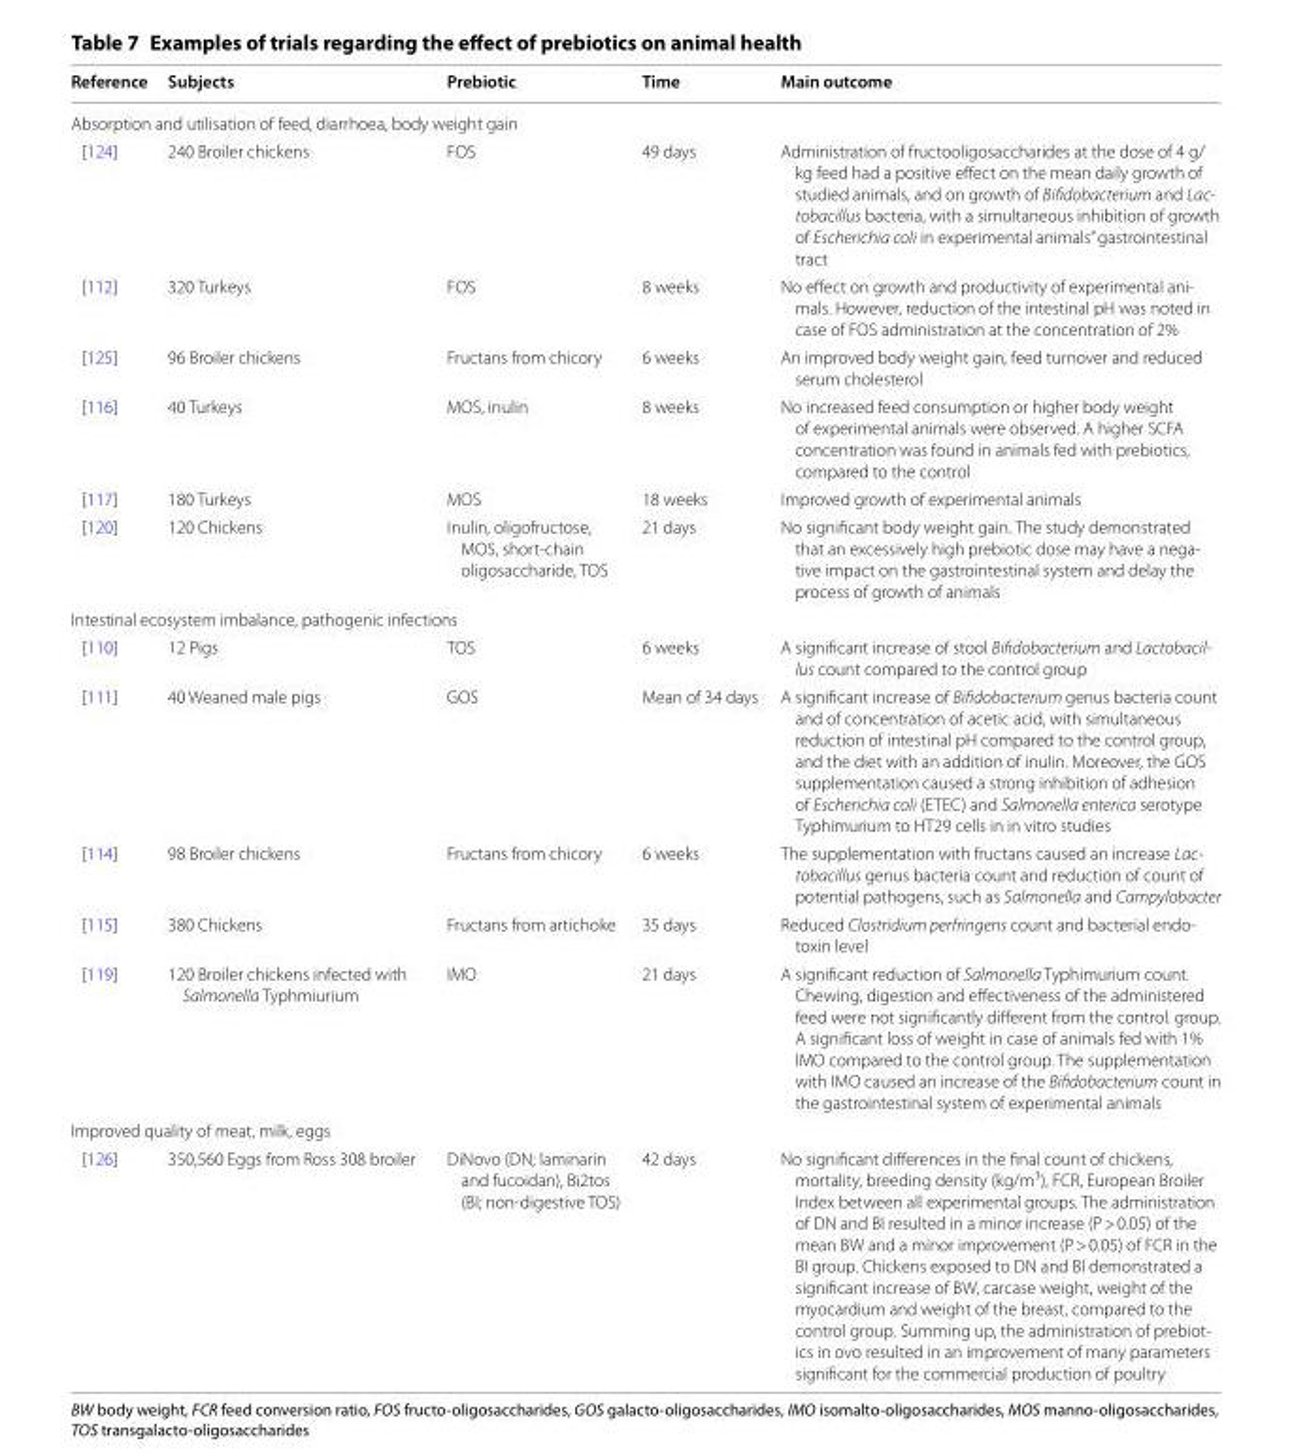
<table><thead><tr><td>Reference</td><td>Subjects</td><td>Prebiotic</td><td>Time</td><td>Main outcome</td></tr></thead><tbody><tr><td colspan="5">Absorption and utilisation of feed, diarrhoea, body weight gain</td></tr><tr><td>[124]</td><td>240 Broiler chickens</td><td>FOS</td><td>49 days</td><td>Administration of fructooligosaccharides at the dose of 4 g/ kg feed had a positive effect on the mean daily growth of studied animals, and on growth of Bifidobacterium and Lac- tobacillus bacteria, with a simultaneous inhibition of growth of Escherichia coli in experimental animals’’ gastrointestinal tract</td></tr><tr><td>[112]</td><td>320 Turkeys</td><td>FOS</td><td>8 weeks</td><td>No effect on growth and productivity of experimental ani- mals. However, reduction of the intestinal pH was noted in case of FOS administration at the concentration of 2%</td></tr><tr><td>[125]</td><td>96 Broiler chickens</td><td>Fructans from chicory</td><td>6 weeks</td><td>An improved body weight gain, feed turnover and reduced serum cholesterol</td></tr><tr><td>[116]</td><td>40 Turkeys</td><td>MOS, inulin</td><td>8 weeks</td><td>No increased feed consumption or higher body weight of experimental animals were observed. A higher SCFA concentration was found in animals fed with prebiotics, compared to the control</td></tr><tr><td>[117]</td><td>180 Turkeys</td><td>MOS</td><td>18 weeks</td><td>Improved growth of experimental animals</td></tr><tr><td>[120]</td><td>120 Chickens</td><td>Inulin, oligofructose, MOS, short-chain oligosaccharide, TOS</td><td>21 days</td><td>No significant body weight gain. The study demonstrated that an excessively high prebiotic dose may have a nega- tive impact on the gastrointestinal system and delay the process of growth of animals</td></tr><tr><td colspan="5">Intestinal ecosystem imbalance, pathogenic infections</td></tr><tr><td>[110]</td><td>12 Pigs</td><td>TOS</td><td>6 weeks</td><td>A significant increase of stool Bifidobacterium and Lactobacil- lus count compared to the control group</td></tr><tr><td>[111]</td><td>40 Weaned male pigs</td><td>GOS</td><td>Mean of 34 days</td><td>A significant increase of Bifidobacterium genus bacteria count and of concentration of acetic acid, with simultaneous reduction of intestinal pH compared to the control group, and the diet with an addition of inulin. Moreover, the GOS supplementation caused a strong inhibition of adhesion of Escherichia coli (ETEC) and Salmonella enterica serotype Typhimurium to HT29 cells in in vitro studies</td></tr><tr><td>[114]</td><td>98 Broiler chickens</td><td>Fructans from chicory</td><td>6 weeks</td><td>The supplementation with fructans caused an increase Lac- tobacillus genus bacteria count and reduction of count of potential pathogens, such as Salmonella and Campylobacter</td></tr><tr><td>[115]</td><td>380 Chickens</td><td>Fructans from artichoke</td><td>35 days</td><td>Reduced Clostridium perfringens count and bacterial endo- toxin level</td></tr><tr><td>[119]</td><td>120 Broiler chickens infected with Salmonella Typhmiurium</td><td>IMO</td><td>21 days</td><td>A significant reduction of Salmonella Typhimurium count. Chewing, digestion and effectiveness of the administered feed were not significantly different from the control. group. A significant loss of weight in case of animals fed with 1% IMO compared to the control group. The supplementation with IMO caused an increase of the Bifidobacterium count in the gastrointestinal system of experimental animals</td></tr><tr><td colspan="5">Improved quality of meat, milk, eggs</td></tr><tr><td>[126]</td><td>350,560 Eggs from Ross 308 broiler</td><td>DiNovo (DN; laminarin and fucoidan), Bi2tos (BI; non-digestive TOS)</td><td>42 days</td><td>No significant differences in the final count of chickens, mortality, breeding density (kg/m3), FCR, European Broiler Index between all experimental groups. The administration of DN and BI resulted in a minor increase (P &gt; 0.05) of the mean BW and a minor improvement (P &gt; 0.05) of FCR in the BI group. Chickens exposed to DN and BI demonstrated a significant increase of BW, carcase weight, weight of the myocardium and weight of the breast, compared to the control group. Summing up, the administration of prebiot- ics in ovo resulted in an improvement of many parameters significant for the commercial production of poultry</td></tr></tbody></table>